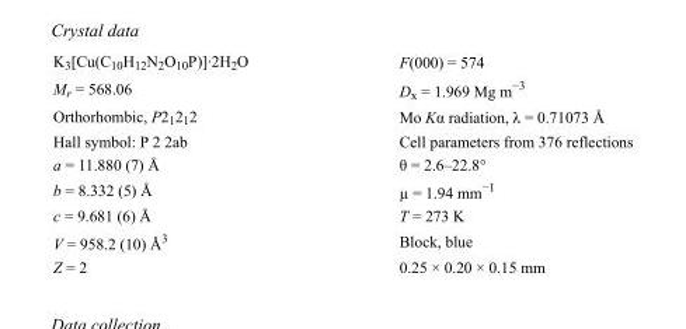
<table><tbody><tr><td>K<sub>3</sub>[Cu(C<sub>10</sub>H<sub>12</sub>N<sub>2</sub>O<sub>10</sub>P)]·2H<sub>2</sub>O</td><td>F(000) = 574</td></tr><tr><td>M<sub>r</sub> = 568.06</td><td>D<sub>x</sub> = 1.969 Mg m<sup>−3</sup></td></tr><tr><td>Orthorhombic, P2<sub>1</sub>2<sub>1</sub>2</td><td>Mo Kα radiation, λ = 0.71073 Å</td></tr><tr><td>Hall symbol: P 2 2ab</td><td>Cell parameters from 376 reflections</td></tr><tr><td>a = 11.880 (7) Å</td><td>θ = 2.6–22.8°</td></tr><tr><td>b = 8.332 (5) Å</td><td>µ = 1.94 mm<sup>−1</sup></td></tr><tr><td>c = 9.681 (6) Å</td><td>T = 273 K</td></tr><tr><td>V = 958.2 (10) Å<sup>3</sup></td><td>Block, blue</td></tr><tr><td>Z = 2</td><td>0.25 × 0.20 × 0.15 mm</td></tr></tbody></table>